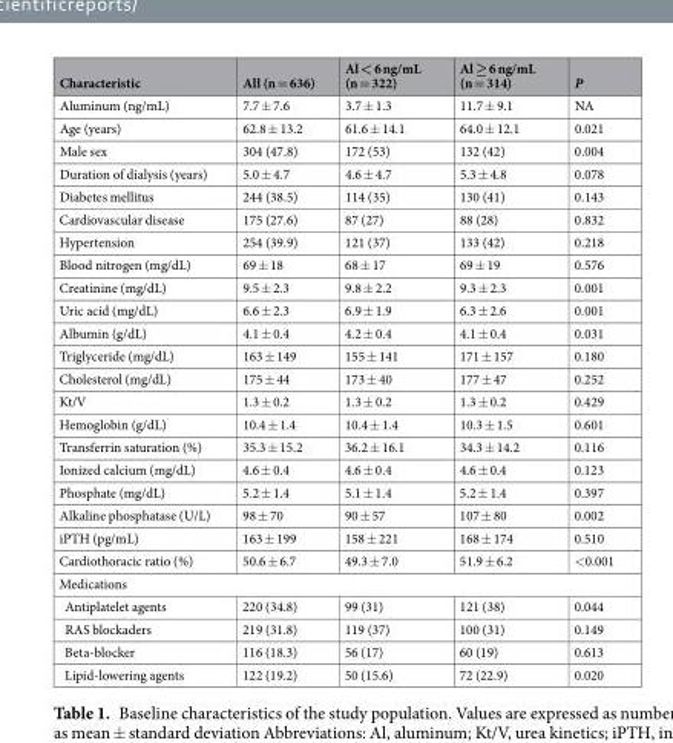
<table><thead><tr><td>Characteristic</td><td>All (n = 636)</td><td>Al &lt; 6 ng/mL (n = 322)</td><td>Al ≥ 6 ng/mL (n = 314)</td><td>P</td></tr></thead><tbody><tr><td>Aluminum (ng/mL)</td><td>7.7 ± 7.6</td><td>3.7 ± 1.3</td><td>11.7 ± 9.1</td><td>NA</td></tr><tr><td>Age (years)</td><td>62.8 ± 13.2</td><td>61.6 ± 14.1</td><td>64.0 ± 12.1</td><td>0.021</td></tr><tr><td>Male sex</td><td>304 (47.8)</td><td>172 (53)</td><td>132 (42)</td><td>0.004</td></tr><tr><td>Duration of dialysis (years)</td><td>5.0 ± 4.7</td><td>4.6 ± 4.7</td><td>5.3 ± 4.8</td><td>0.078</td></tr><tr><td>Diabetes mellitus</td><td>244 (38.5)</td><td>114 (35)</td><td>130 (41)</td><td>0.143</td></tr><tr><td>Cardiovascular disease</td><td>175 (27.6)</td><td>87 (27)</td><td>88 (28)</td><td>0.832</td></tr><tr><td>Hypertension</td><td>254 (39.9)</td><td>121 (37)</td><td>133 (42)</td><td>0.218</td></tr><tr><td>Blood nitrogen (mg/dL)</td><td>69 ± 18</td><td>68 ± 17</td><td>69 ± 19</td><td>0.576</td></tr><tr><td>Creatinine (mg/dL)</td><td>9.5 ± 2.3</td><td>9.8 ± 2.2</td><td>9.3 ± 2.3</td><td>0.001</td></tr><tr><td>Uric acid (mg/dL)</td><td>6.6 ± 2.3</td><td>6.9 ± 1.9</td><td>6.3 ± 2.6</td><td>0.001</td></tr><tr><td>Albumin (g/dL)</td><td>4.1 ± 0.4</td><td>4.2 ± 0.4</td><td>4.1 ± 0.4</td><td>0.031</td></tr><tr><td>Triglyceride (mg/dL)</td><td>163 ± 149</td><td>155 ± 141</td><td>171 ± 157</td><td>0.180</td></tr><tr><td>Cholesterol (mg/dL)</td><td>175 ± 44</td><td>173 ± 40</td><td>177 ± 47</td><td>0.252</td></tr><tr><td>Kt/V</td><td>1.3 ± 0.2</td><td>1.3 ± 0.2</td><td>1.3 ± 0.2</td><td>0.429</td></tr><tr><td>Hemoglobin (g/dL)</td><td>10.4 ± 1.4</td><td>10.4 ± 1.4</td><td>10.3 ± 1.5</td><td>0.601</td></tr><tr><td>Transferrin saturation (%)</td><td>35.3 ± 15.2</td><td>36.2 ± 16.1</td><td>34.3 ± 14.2</td><td>0.116</td></tr><tr><td>Ionized calcium (mg/dL)</td><td>4.6 ± 0.4</td><td>4.6 ± 0.4</td><td>4.6 ± 0.4</td><td>0.123</td></tr><tr><td>Phosphate (mg/dL)</td><td>5.2 ± 1.4</td><td>5.1 ± 1.4</td><td>5.2 ± 1.4</td><td>0.397</td></tr><tr><td>Alkaline phosphatase (U/L)</td><td>98 ± 70</td><td>90 ± 57</td><td>107 ± 80</td><td>0.002</td></tr><tr><td>iPTH (pg/mL)</td><td>163 ± 199</td><td>158 ± 221</td><td>168 ± 174</td><td>0.510</td></tr><tr><td>Cardiothoracic ratio (%)</td><td>50.6 ± 6.7</td><td>49.3 ± 7.0</td><td>51.9 ± 6.2</td><td>&lt;0.001</td></tr><tr><td colspan="5">Medications</td></tr><tr><td>Antiplatelet agents</td><td>220 (34.8)</td><td>99 (31)</td><td>121 (38)</td><td>0.044</td></tr><tr><td>RAS blockaders</td><td>219 (31.8)</td><td>119 (37)</td><td>100 (31)</td><td>0.149</td></tr><tr><td>Beta-blocker</td><td>116 (18.3)</td><td>56 (17)</td><td>60 (19)</td><td>0.613</td></tr><tr><td>Lipid-lowering agents</td><td>122 (19.2)</td><td>50 (15.6)</td><td>72 (22.9)</td><td>0.020</td></tr></tbody></table>